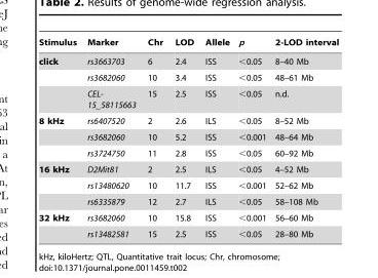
<table><thead><tr><td>Stimulus</td><td>Marker</td><td>Chr</td><td>LOD</td><td>Allele</td><td>p</td><td>2-LOD interval</td></tr></thead><tbody><tr><td rowspan="3">click</td><td>rs3663703</td><td>6</td><td>2.4</td><td>ISS</td><td>&lt;0.05</td><td>8–40 Mb</td></tr><tr><td>rs3682060</td><td>10</td><td>3.4</td><td>ISS</td><td>&lt;0.05</td><td>48–61 Mb</td></tr><tr><td>CEL- 15_58115663</td><td>15</td><td>2.5</td><td>ISS</td><td>&lt;0.05</td><td>n.d.</td></tr><tr><td rowspan="3">8 kHz</td><td>rs6407520</td><td>2</td><td>2.6</td><td>ILS</td><td>&lt;0.05</td><td>8–52 Mb</td></tr><tr><td>rs3682060</td><td>10</td><td>5.2</td><td>ISS</td><td>&lt;0.001</td><td>48–64 Mb</td></tr><tr><td>rs3724750</td><td>11</td><td>2.8</td><td>ISS</td><td>&lt;0.05</td><td>60–92 Mb</td></tr><tr><td rowspan="3">16 kHz</td><td>D2Mit81</td><td>2</td><td>2.5</td><td>ILS</td><td>&lt;0.05</td><td>4–52 Mb</td></tr><tr><td>rs13480620</td><td>10</td><td>11.7</td><td>ISS</td><td>&lt;0.001</td><td>52–62 Mb</td></tr><tr><td>rs6335879</td><td>12</td><td>2.7</td><td>ILS</td><td>&lt;0.05</td><td>58–108 Mb</td></tr><tr><td rowspan="2">32 kHz</td><td>rs3682060</td><td>10</td><td>15.8</td><td>ISS</td><td>&lt;0.001</td><td>56–60 Mb</td></tr><tr><td>rs13482581</td><td>15</td><td>2.5</td><td>ISS</td><td>&lt;0.05</td><td>28–80 Mb</td></tr></tbody></table>